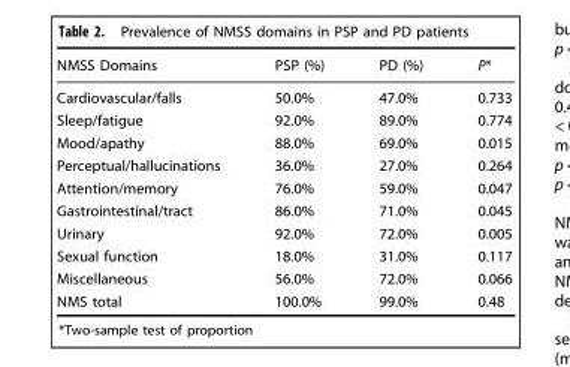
<table><thead><tr><td>NMSS Domains</td><td>PSP (%)</td><td>PD (%)</td><td>P*</td></tr></thead><tbody><tr><td>Cardiovascular/falls</td><td>50.0%</td><td>47.0%</td><td>0.733</td></tr><tr><td>Sleep/fatigue</td><td>92.0%</td><td>89.0%</td><td>0.774</td></tr><tr><td>Mood/apathy</td><td>88.0%</td><td>69.0%</td><td>0.015</td></tr><tr><td>Perceptual/hallucinations</td><td>36.0%</td><td>27.0%</td><td>0.264</td></tr><tr><td>Attention/memory</td><td>76.0%</td><td>59.0%</td><td>0.047</td></tr><tr><td>Gastrointestinal/tract</td><td>86.0%</td><td>71.0%</td><td>0.045</td></tr><tr><td>Urinary</td><td>92.0%</td><td>72.0%</td><td>0.005</td></tr><tr><td>Sexual function</td><td>18.0%</td><td>31.0%</td><td>0.117</td></tr><tr><td>Miscellaneous</td><td>56.0%</td><td>72.0%</td><td>0.066</td></tr><tr><td>NMS total</td><td>100.0%</td><td>99.0%</td><td>0.48</td></tr></tbody></table>